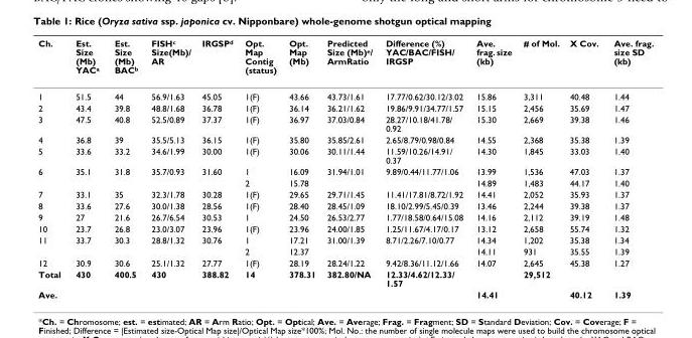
<table><thead><tr><td>Ch.</td><td>Est. Size (Mb) YAC<sup>a</sup></td><td>Est. Size (Mb) BAC<sup>b</sup></td><td>FISH<sup>c</sup> Size(Mb)/ AR</td><td>IRGSP<sup>d</sup></td><td>Opt. Map Contig (status)</td><td>Opt. Map (Mb)</td><td>Predicted Size (Mb)<sup>e</sup>/ ArmRatio</td><td>Difference (%) YAC/BAC/FISH/ IRGSP</td><td>Ave. frag. size (kb)</td><td># of Mol.</td><td>X Cov.</td><td>Ave. frag. size SD (kb)</td></tr></thead><tbody><tr><td>1</td><td>51.5</td><td>44</td><td>56.9/1.63</td><td>45.05</td><td>1(F)</td><td>43.66</td><td>43.73/1.61</td><td>17.77/0.62/30.12/3.02</td><td>15.86</td><td>3,311</td><td>40.48</td><td>1.44</td></tr><tr><td>2</td><td>43.4</td><td>39.8</td><td>48.8/1.68</td><td>36.78</td><td>1(F)</td><td>36.14</td><td>36.21/1.62</td><td>19.86/9.91/34.77/1.57</td><td>15.15</td><td>2,456</td><td>35.69</td><td>1.47</td></tr><tr><td>3</td><td>47.5</td><td>40.8</td><td>52.5/0.89</td><td>37.37</td><td>1(F)</td><td>36.97</td><td>37.03/0.84</td><td>28.27/10.18/41.78/ 0.92</td><td>15.30</td><td>2,669</td><td>39.38</td><td>1.46</td></tr><tr><td>4</td><td>36.8</td><td>39</td><td>35.5/5.13</td><td>36.15</td><td>1(F)</td><td>35.80</td><td>35.85/2.61</td><td>2.65/8.79/0.98/0.84</td><td>14.55</td><td>2,368</td><td>35.38</td><td>1.39</td></tr><tr><td>5</td><td>33.6</td><td>33.2</td><td>34.6/1.99</td><td>30.00</td><td>1(F)</td><td>30.06</td><td>30.11/1.44</td><td>11.59/10.26/14.91/ 0.37</td><td>14.30</td><td>1,845</td><td>33.03</td><td>1.40</td></tr><tr><td rowspan="2">6</td><td>35.1</td><td>31.8</td><td>35.7/0.93</td><td>31.60</td><td>1</td><td>16.09</td><td>31.94/1.01</td><td>9.89/0.44/11.77/1.06</td><td>13.99</td><td>1,536</td><td>47.03</td><td>1.37</td></tr><tr><td></td><td></td><td></td><td></td><td>2</td><td>15.78</td><td></td><td></td><td>14.89</td><td>1,483</td><td>44.17</td><td>1.40</td></tr><tr><td>7</td><td>33.1</td><td>35</td><td>32.3/1.78</td><td>30.28</td><td>1(F)</td><td>29.65</td><td>29.71/1.45</td><td>11.41/17.81/8.72/1.92</td><td>14.41</td><td>2,052</td><td>35.93</td><td>1.37</td></tr><tr><td>8</td><td>33.6</td><td>27.6</td><td>30.0/1.38</td><td>28.56</td><td>1(F)</td><td>28.40</td><td>28.45/1.09</td><td>18.10/2.99/5.45/0.39</td><td>13.46</td><td>2,244</td><td>39.38</td><td>1.37</td></tr><tr><td>9</td><td>27</td><td>21.6</td><td>26.7/6.54</td><td>30.53</td><td>1</td><td>24.50</td><td>26.53/2.77</td><td>1.77/18.58/0.64/15.08</td><td>14.16</td><td>2,112</td><td>39.19</td><td>1.48</td></tr><tr><td>10</td><td>23.7</td><td>26.8</td><td>23.0/3.07</td><td>23.96</td><td>1(F)</td><td>23.96</td><td>24.00/1.85</td><td>1.25/11.67/4.17/0.17</td><td>13.12</td><td>2,658</td><td>55.74</td><td>1.32</td></tr><tr><td rowspan="2">11</td><td>33.7</td><td>30.3</td><td>28.8/1.32</td><td>30.76</td><td>1</td><td>17.21</td><td>31.00/1.39</td><td>8.71/2.26/7.10/0.77</td><td>14.34</td><td>1,202</td><td>35.38</td><td>1.34</td></tr><tr><td></td><td></td><td></td><td></td><td>2</td><td>12.37</td><td></td><td></td><td>14.11</td><td>931</td><td>35.55</td><td>1.39</td></tr><tr><td>12</td><td>30.9</td><td>30.6</td><td>25.1/1.32</td><td>27.77</td><td>1(F)</td><td>28.19</td><td>28.24/1.22</td><td>9.42/8.36/11.12/1.66</td><td>14.07</td><td>2,645</td><td>45.38</td><td>1.27</td></tr><tr><td>Total</td><td>430</td><td>400.5</td><td>430</td><td>388.82</td><td>14</td><td>378.31</td><td>382.80/NA</td><td>12.33/4.62/12.33/ 1.57</td><td></td><td>29,512</td><td></td><td></td></tr><tr><td>Ave.</td><td></td><td></td><td></td><td></td><td></td><td></td><td></td><td></td><td>14.41</td><td></td><td>40.12</td><td>1.39</td></tr></tbody></table>